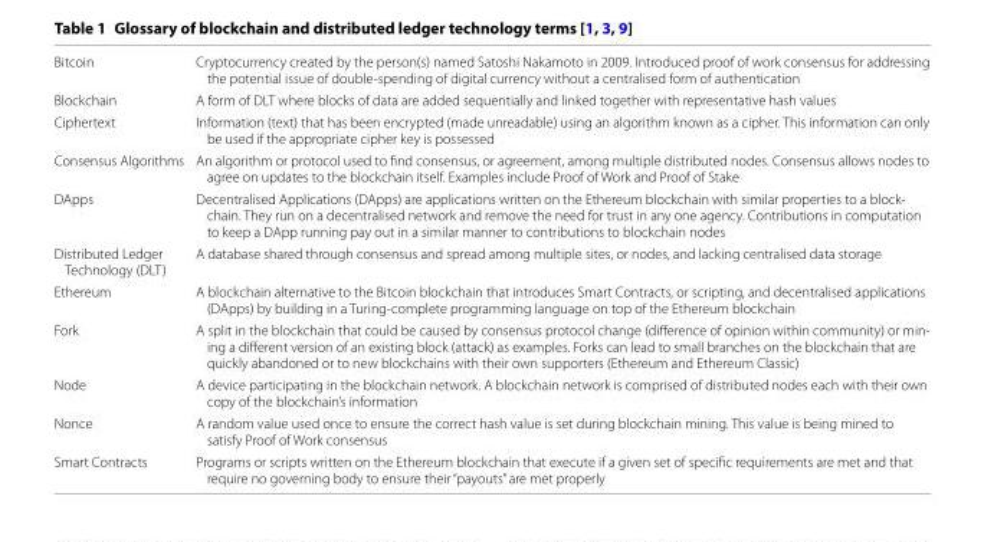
<table><tbody><tr><td>Bitcoin</td><td>Cryptocurrency created by the person(s) named Satoshi Nakamoto in 2009. Introduced proof of work consensus for addressing the potential issue of double-spending of digital currency without a centralised form of authentication</td></tr><tr><td>Blockchain</td><td>A form of DLT where blocks of data are added sequentially and linked together with representative hash values</td></tr><tr><td>Ciphertext</td><td>Information (text) that has been encrypted (made unreadable) using an algorithm known as a cipher. This information can only be used if the appropriate cipher key is possessed</td></tr><tr><td>Consensus Algorithms</td><td>An algorithm or protocol used to find consensus, or agreement, among multiple distributed nodes. Consensus allows nodes to agree on updates to the blockchain itself. Examples include Proof of Work and Proof of Stake</td></tr><tr><td>DApps</td><td>Decentralised Applications (DApps) are applications written on the Ethereum blockchain with similar properties to a block- chain. They run on a decentralised network and remove the need for trust in any one agency. Contributions in computation to keep a DApp running pay out in a similar manner to contributions to blockchain nodes</td></tr><tr><td>Distributed Ledger Technology (DLT)</td><td>A database shared through consensus and spread among multiple sites, or nodes, and lacking centralised data storage</td></tr><tr><td>Ethereum</td><td>A blockchain alternative to the Bitcoin blockchain that introduces Smart Contracts, or scripting, and decentralised applications (DApps) by building in a Turing-complete programming language on top of the Ethereum blockchain</td></tr><tr><td>Fork</td><td>A split in the blockchain that could be caused by consensus protocol change (difference of opinion within community) or min- ing a different version of an existing block (attack) as examples. Forks can lead to small branches on the blockchain that are quickly abandoned or to new blockchains with their own supporters (Ethereum and Ethereum Classic)</td></tr><tr><td>Node</td><td>A device participating in the blockchain network. A blockchain network is comprised of distributed nodes each with their own copy of the blockchain’s information</td></tr><tr><td>Nonce</td><td>A random value used once to ensure the correct hash value is set during blockchain mining. This value is being mined to satisfy Proof of Work consensus</td></tr><tr><td>Smart Contracts</td><td>Programs or scripts written on the Ethereum blockchain that execute if a given set of specific requirements are met and that require no governing body to ensure their “payouts” are met properly</td></tr></tbody></table>